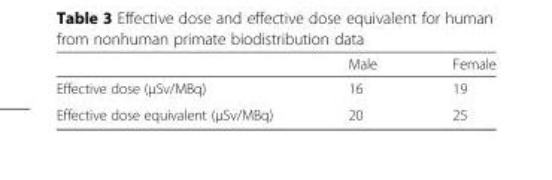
<table><thead><tr><td></td><td>Male</td><td>Female</td></tr></thead><tbody><tr><td>Effective dose (μSv/MBq)</td><td>16</td><td>19</td></tr><tr><td>Effective dose equivalent (μSv/MBq)</td><td>20</td><td>25</td></tr></tbody></table>